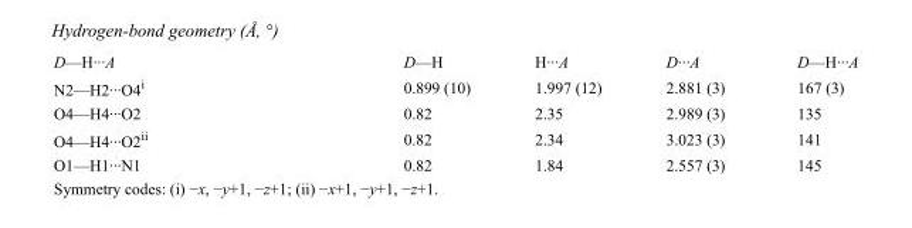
<table><tbody><tr><td>D—H···A</td><td>D—H</td><td>H···A</td><td>D···A</td><td>D—H···A</td></tr><tr><td>N2—H2···O4<sup>i</sup></td><td>0.899 (10)</td><td>1.997 (12)</td><td>2.881 (3)</td><td>167 (3)</td></tr><tr><td>O4—H4···O2</td><td>0.82</td><td>2.35</td><td>2.989 (3)</td><td>135</td></tr><tr><td>O4—H4···O2<sup>ii</sup></td><td>0.82</td><td>2.34</td><td>3.023 (3)</td><td>141</td></tr><tr><td>O1—H1···N1</td><td>0.82</td><td>1.84</td><td>2.557 (3)</td><td>145</td></tr></tbody></table>